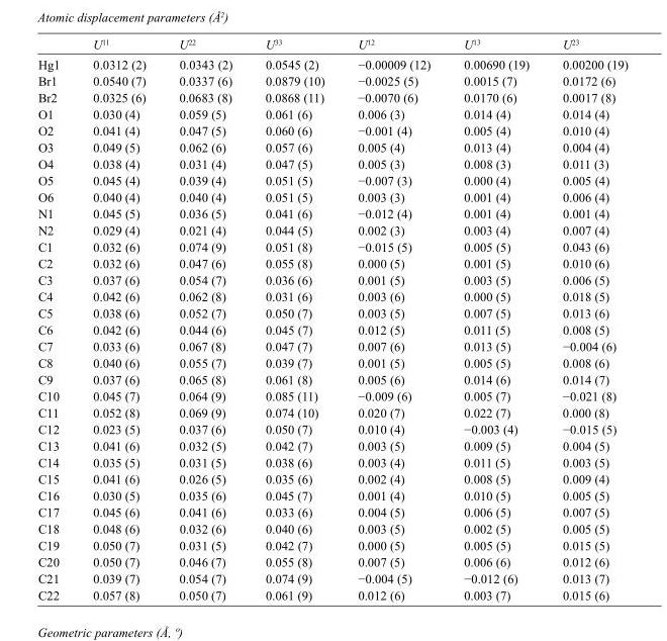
<table><thead><tr><td></td><td>U<sup>11</sup></td><td>U<sup>22</sup></td><td>U<sup>33</sup></td><td>U<sup>12</sup></td><td>U<sup>13</sup></td><td>U<sup>23</sup></td></tr></thead><tbody><tr><td>Hg1</td><td>0.0312 (2)</td><td>0.0343 (2)</td><td>0.0545 (2)</td><td>−0.00009 (12)</td><td>0.00690 (19)</td><td>0.00200 (19)</td></tr><tr><td>Br1</td><td>0.0540 (7)</td><td>0.0337 (6)</td><td>0.0879 (10)</td><td>−0.0025 (5)</td><td>0.0015 (7)</td><td>0.0172 (6)</td></tr><tr><td>Br2</td><td>0.0325 (6)</td><td>0.0683 (8)</td><td>0.0868 (11)</td><td>−0.0070 (6)</td><td>0.0170 (6)</td><td>0.0017 (8)</td></tr><tr><td>O1</td><td>0.030 (4)</td><td>0.059 (5)</td><td>0.061 (6)</td><td>0.006 (3)</td><td>0.014 (4)</td><td>0.014 (4)</td></tr><tr><td>O2</td><td>0.041 (4)</td><td>0.047 (5)</td><td>0.060 (6)</td><td>−0.001 (4)</td><td>0.005 (4)</td><td>0.010 (4)</td></tr><tr><td>O3</td><td>0.049 (5)</td><td>0.062 (6)</td><td>0.057 (6)</td><td>0.005 (4)</td><td>0.013 (4)</td><td>0.004 (4)</td></tr><tr><td>O4</td><td>0.038 (4)</td><td>0.031 (4)</td><td>0.047 (5)</td><td>0.005 (3)</td><td>0.008 (3)</td><td>0.011 (3)</td></tr><tr><td>O5</td><td>0.045 (4)</td><td>0.039 (4)</td><td>0.051 (5)</td><td>−0.007 (3)</td><td>0.000 (4)</td><td>0.005 (4)</td></tr><tr><td>O6</td><td>0.040 (4)</td><td>0.040 (4)</td><td>0.051 (5)</td><td>0.003 (3)</td><td>0.001 (4)</td><td>0.006 (4)</td></tr><tr><td>N1</td><td>0.045 (5)</td><td>0.036 (5)</td><td>0.041 (6)</td><td>−0.012 (4)</td><td>0.001 (4)</td><td>0.001 (4)</td></tr><tr><td>N2</td><td>0.029 (4)</td><td>0.021 (4)</td><td>0.044 (5)</td><td>0.002 (3)</td><td>0.003 (4)</td><td>0.007 (4)</td></tr><tr><td>C1</td><td>0.032 (6)</td><td>0.074 (9)</td><td>0.051 (8)</td><td>−0.015 (5)</td><td>0.005 (5)</td><td>0.043 (6)</td></tr><tr><td>C2</td><td>0.032 (6)</td><td>0.047 (6)</td><td>0.055 (8)</td><td>0.000 (5)</td><td>0.001 (5)</td><td>0.010 (6)</td></tr><tr><td>C3</td><td>0.037 (6)</td><td>0.054 (7)</td><td>0.036 (6)</td><td>0.001 (5)</td><td>0.003 (5)</td><td>0.006 (5)</td></tr><tr><td>C4</td><td>0.042 (6)</td><td>0.062 (8)</td><td>0.031 (6)</td><td>0.003 (6)</td><td>0.000 (5)</td><td>0.018 (5)</td></tr><tr><td>C5</td><td>0.038 (6)</td><td>0.052 (7)</td><td>0.050 (7)</td><td>0.003 (5)</td><td>0.007 (5)</td><td>0.013 (6)</td></tr><tr><td>C6</td><td>0.042 (6)</td><td>0.044 (6)</td><td>0.045 (7)</td><td>0.012 (5)</td><td>0.011 (5)</td><td>0.008 (5)</td></tr><tr><td>C7</td><td>0.033 (6)</td><td>0.067 (8)</td><td>0.047 (7)</td><td>0.007 (6)</td><td>0.013 (5)</td><td>−0.004 (6)</td></tr><tr><td>C8</td><td>0.040 (6)</td><td>0.055 (7)</td><td>0.039 (7)</td><td>0.001 (5)</td><td>0.005 (5)</td><td>0.008 (6)</td></tr><tr><td>C9</td><td>0.037 (6)</td><td>0.065 (8)</td><td>0.061 (8)</td><td>0.005 (6)</td><td>0.014 (6)</td><td>0.014 (7)</td></tr><tr><td>C10</td><td>0.045 (7)</td><td>0.064 (9)</td><td>0.085 (11)</td><td>−0.009 (6)</td><td>0.005 (7)</td><td>−0.021 (8)</td></tr><tr><td>C11</td><td>0.052 (8)</td><td>0.069 (9)</td><td>0.074 (10)</td><td>0.020 (7)</td><td>0.022 (7)</td><td>0.000 (8)</td></tr><tr><td>C12</td><td>0.023 (5)</td><td>0.037 (6)</td><td>0.050 (7)</td><td>0.010 (4)</td><td>−0.003 (4)</td><td>−0.015 (5)</td></tr><tr><td>C13</td><td>0.041 (6)</td><td>0.032 (5)</td><td>0.042 (7)</td><td>0.003 (5)</td><td>0.009 (5)</td><td>0.004 (5)</td></tr><tr><td>C14</td><td>0.035 (5)</td><td>0.031 (5)</td><td>0.038 (6)</td><td>0.003 (4)</td><td>0.011 (5)</td><td>0.003 (5)</td></tr><tr><td>C15</td><td>0.041 (6)</td><td>0.026 (5)</td><td>0.035 (6)</td><td>0.002 (4)</td><td>0.008 (5)</td><td>0.009 (4)</td></tr><tr><td>C16</td><td>0.030 (5)</td><td>0.035 (6)</td><td>0.045 (7)</td><td>0.001 (4)</td><td>0.010 (5)</td><td>0.005 (5)</td></tr><tr><td>C17</td><td>0.045 (6)</td><td>0.041 (6)</td><td>0.033 (6)</td><td>0.004 (5)</td><td>0.006 (5)</td><td>0.007 (5)</td></tr><tr><td>C18</td><td>0.048 (6)</td><td>0.032 (6)</td><td>0.040 (6)</td><td>0.003 (5)</td><td>0.002 (5)</td><td>0.005 (5)</td></tr><tr><td>C19</td><td>0.050 (7)</td><td>0.031 (5)</td><td>0.042 (7)</td><td>0.000 (5)</td><td>0.005 (5)</td><td>0.015 (5)</td></tr><tr><td>C20</td><td>0.050 (7)</td><td>0.046 (7)</td><td>0.055 (8)</td><td>0.007 (5)</td><td>0.006 (6)</td><td>0.012 (6)</td></tr><tr><td>C21</td><td>0.039 (7)</td><td>0.054 (7)</td><td>0.074 (9)</td><td>−0.004 (5)</td><td>−0.012 (6)</td><td>0.013 (7)</td></tr><tr><td>C22</td><td>0.057 (8)</td><td>0.050 (7)</td><td>0.061 (9)</td><td>0.012 (6)</td><td>0.003 (7)</td><td>0.015 (6)</td></tr></tbody></table>